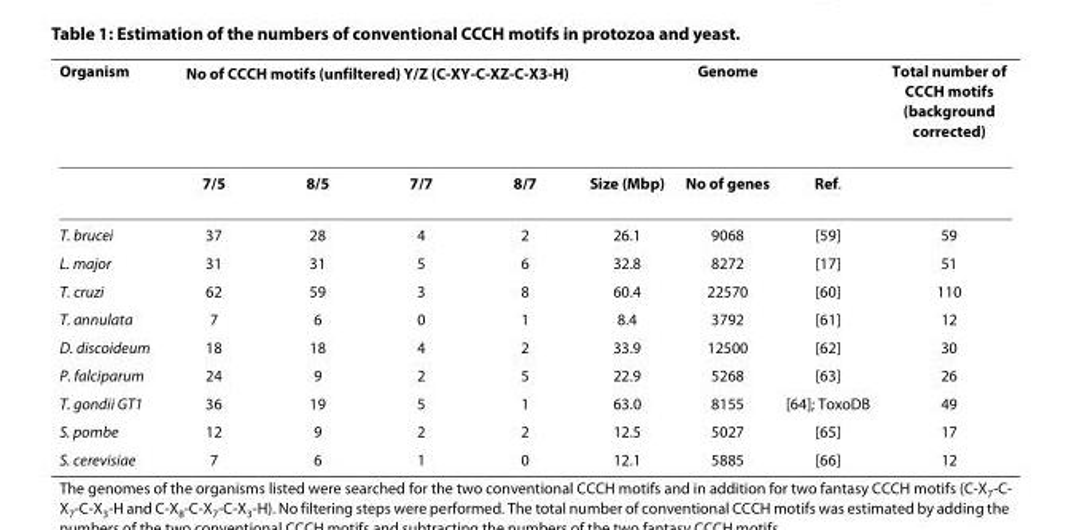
<table><thead><tr><td rowspan="2">Organism</td><td colspan="4">No of CCCH motifs (unfiltered) Y/Z (C-X<sub>Y</sub>-C-X<sub>Z</sub>-C-X<sub>3</sub>-H)</td><td colspan="3">Genome</td><td rowspan="2">Total number of CCCH motifs (background corrected)</td></tr><tr><td>7/5</td><td>8/5</td><td>7/7</td><td>8/7</td><td>Size (Mbp)</td><td>No of genes</td><td>Ref.</td></tr></thead><tbody><tr><td>T. brucei</td><td>37</td><td>28</td><td>4</td><td>2</td><td>26.1</td><td>9068</td><td>[59]</td><td>59</td></tr><tr><td>L. major</td><td>31</td><td>31</td><td>5</td><td>6</td><td>32.8</td><td>8272</td><td>[17]</td><td>51</td></tr><tr><td>T. cruzi</td><td>62</td><td>59</td><td>3</td><td>8</td><td>60.4</td><td>22570</td><td>[60]</td><td>110</td></tr><tr><td>T. annulata</td><td>7</td><td>6</td><td>0</td><td>1</td><td>8.4</td><td>3792</td><td>[61]</td><td>12</td></tr><tr><td>D. discoideum</td><td>18</td><td>18</td><td>4</td><td>2</td><td>33.9</td><td>12500</td><td>[62]</td><td>30</td></tr><tr><td>P. falciparum</td><td>24</td><td>9</td><td>2</td><td>5</td><td>22.9</td><td>5268</td><td>[63]</td><td>26</td></tr><tr><td>T. gondii GT1</td><td>36</td><td>19</td><td>5</td><td>1</td><td>63.0</td><td>8155</td><td>[64]; ToxoDB</td><td>49</td></tr><tr><td>S. pombe</td><td>12</td><td>9</td><td>2</td><td>2</td><td>12.5</td><td>5027</td><td>[65]</td><td>17</td></tr><tr><td>S. cerevisiae</td><td>7</td><td>6</td><td>1</td><td>0</td><td>12.1</td><td>5885</td><td>[66]</td><td>12</td></tr></tbody></table>